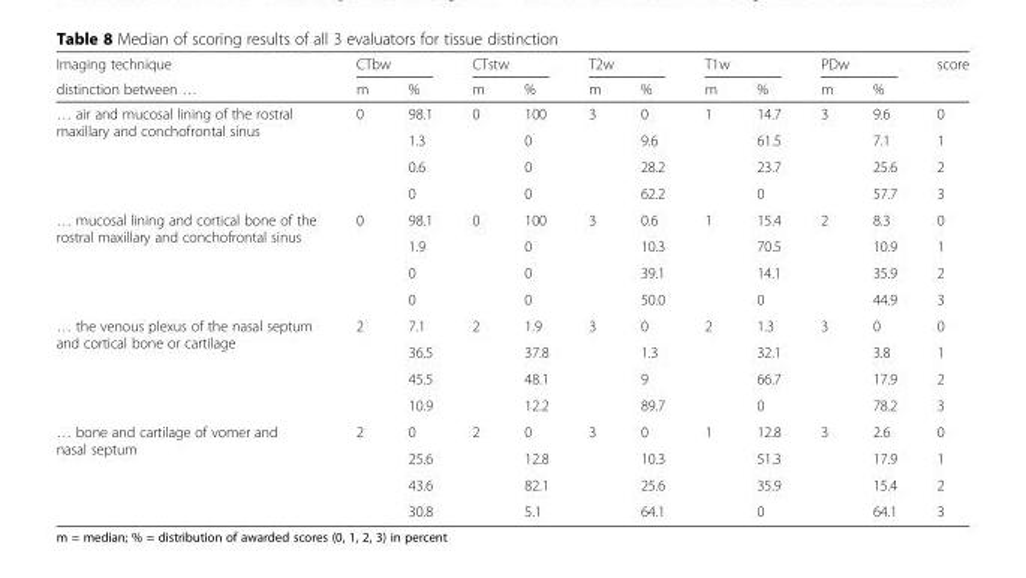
<table><thead><tr><td rowspan="2">Imaging technique distinction between …</td><td colspan="2">CTbw</td><td colspan="2">CTstw</td><td colspan="2">T2w</td><td colspan="2">T1w</td><td colspan="2">PDw</td><td rowspan="2">score</td></tr><tr><td>m</td><td>%</td><td>m</td><td>%</td><td>m</td><td>%</td><td>m</td><td>%</td><td>m</td><td>%</td></tr></thead><tbody><tr><td rowspan="4">… air and mucosal lining of the rostral maxillary and conchofrontal sinus</td><td rowspan="4">0</td><td>98.1</td><td rowspan="4">0</td><td>100</td><td rowspan="4">3</td><td>0</td><td rowspan="4">1</td><td>14.7</td><td rowspan="4">3</td><td>9.6</td><td>0</td></tr><tr><td>1.3</td><td>0</td><td>9.6</td><td>61.5</td><td>7.1</td><td>1</td></tr><tr><td>0.6</td><td>0</td><td>28.2</td><td>23.7</td><td>25.6</td><td>2</td></tr><tr><td>0</td><td>0</td><td>62.2</td><td>0</td><td>57.7</td><td>3</td></tr><tr><td rowspan="4">… mucosal lining and cortical bone of the rostral maxillary and conchofrontal sinus</td><td rowspan="4">0</td><td>98.1</td><td rowspan="4">0</td><td>100</td><td rowspan="4">3</td><td>0.6</td><td rowspan="4">1</td><td>15.4</td><td rowspan="4">2</td><td>8.3</td><td>0</td></tr><tr><td>1.9</td><td>0</td><td>10.3</td><td>70.5</td><td>10.9</td><td>1</td></tr><tr><td>0</td><td>0</td><td>39.1</td><td>14.1</td><td>35.9</td><td>2</td></tr><tr><td>0</td><td>0</td><td>50.0</td><td>0</td><td>44.9</td><td>3</td></tr><tr><td rowspan="4">… the venous plexus of the nasal septum and cortical bone or cartilage</td><td rowspan="4">2</td><td>7.1</td><td rowspan="4">2</td><td>1.9</td><td rowspan="4">3</td><td>0</td><td rowspan="4">2</td><td>1.3</td><td rowspan="4">3</td><td>0</td><td>0</td></tr><tr><td>36.5</td><td>37.8</td><td>1.3</td><td>32.1</td><td>3.8</td><td>1</td></tr><tr><td>45.5</td><td>48.1</td><td>9</td><td>66.7</td><td>17.9</td><td>2</td></tr><tr><td>10.9</td><td>12.2</td><td>89.7</td><td>0</td><td>78.2</td><td>3</td></tr><tr><td rowspan="4">… bone and cartilage of vomer and nasal septum</td><td rowspan="4">2</td><td>0</td><td rowspan="4">2</td><td>0</td><td rowspan="4">3</td><td>0</td><td rowspan="4">1</td><td>12.8</td><td rowspan="4">3</td><td>2.6</td><td>0</td></tr><tr><td>25.6</td><td>12.8</td><td>10.3</td><td>51.3</td><td>17.9</td><td>1</td></tr><tr><td>43.6</td><td>82.1</td><td>25.6</td><td>35.9</td><td>15.4</td><td>2</td></tr><tr><td>30.8</td><td>5.1</td><td>64.1</td><td>0</td><td>64.1</td><td>3</td></tr></tbody></table>